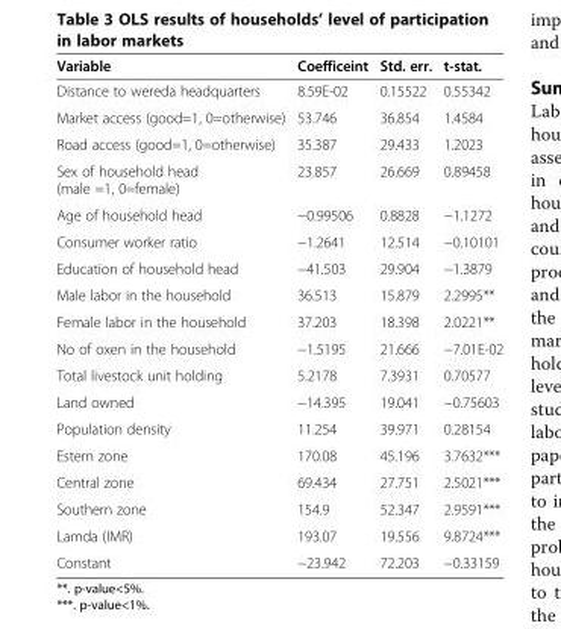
<table><thead><tr><td>Variable</td><td>Coefficeint</td><td>Std. err.</td><td>t-stat.</td></tr></thead><tbody><tr><td>Distance to wereda headquarters</td><td>8.59E-02</td><td>0.15522</td><td>0.55342</td></tr><tr><td>Market access (good=1, 0=otherwise)</td><td>53.746</td><td>36.854</td><td>1.4584</td></tr><tr><td>Road access (good=1, 0=otherwise)</td><td>35.387</td><td>29.433</td><td>1.2023</td></tr><tr><td>Sex of household head (male =1, 0=female)</td><td>23.857</td><td>26.669</td><td>0.89458</td></tr><tr><td>Age of household head</td><td>−0.99506</td><td>0.8828</td><td>−1.1272</td></tr><tr><td>Consumer worker ratio</td><td>−1.2641</td><td>12.514</td><td>−0.10101</td></tr><tr><td>Education of household head</td><td>−41.503</td><td>29.904</td><td>−1.3879</td></tr><tr><td>Male labor in the household</td><td>36.513</td><td>15.879</td><td>2.2995**</td></tr><tr><td>Female labor in the household</td><td>37.203</td><td>18.398</td><td>2.0221**</td></tr><tr><td>No of oxen in the household</td><td>−1.5195</td><td>21.666</td><td>−7.01E-02</td></tr><tr><td>Total livestock unit holding</td><td>5.2178</td><td>7.3931</td><td>0.70577</td></tr><tr><td>Land owned</td><td>−14.395</td><td>19.041</td><td>−0.75603</td></tr><tr><td>Population density</td><td>11.254</td><td>39.971</td><td>0.28154</td></tr><tr><td>Estern zone</td><td>170.08</td><td>45.196</td><td>3.7632***</td></tr><tr><td>Central zone</td><td>69.434</td><td>27.751</td><td>2.5021***</td></tr><tr><td>Southern zone</td><td>154.9</td><td>52.347</td><td>2.9591***</td></tr><tr><td>Lamda (IMR)</td><td>193.07</td><td>19.556</td><td>9.8724***</td></tr><tr><td>Constant</td><td>−23.942</td><td>72.203</td><td>−0.33159</td></tr></tbody></table>